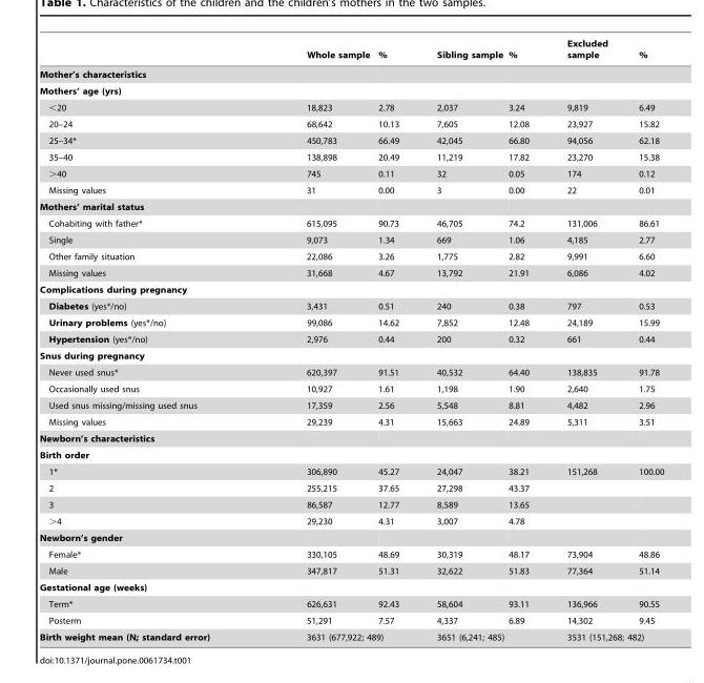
<table><thead><tr><td></td><td>Whole sample</td><td>%</td><td>Sibling sample</td><td>%</td><td>Excluded sample</td><td>%</td></tr></thead><tbody><tr><td colspan="7">Mother’s characteristics</td></tr><tr><td colspan="7">Mothers’ age (yrs)</td></tr><tr><td>&lt;20</td><td>18,823</td><td>2.78</td><td>2,037</td><td>3.24</td><td>9,819</td><td>6.49</td></tr><tr><td>20–24</td><td>68,642</td><td>10.13</td><td>7,605</td><td>12.08</td><td>23,927</td><td>15.82</td></tr><tr><td>25–34*</td><td>450,783</td><td>66.49</td><td>42,045</td><td>66.80</td><td>94,056</td><td>62.18</td></tr><tr><td>35–40</td><td>138,898</td><td>20.49</td><td>11,219</td><td>17.82</td><td>23,270</td><td>15.38</td></tr><tr><td>&gt;40</td><td>745</td><td>0.11</td><td>32</td><td>0.05</td><td>174</td><td>0.12</td></tr><tr><td>Missing values</td><td>31</td><td>0.00</td><td>3</td><td>0.00</td><td>22</td><td>0.01</td></tr><tr><td colspan="7">Mothers’ marital status</td></tr><tr><td>Cohabiting with father*</td><td>615,095</td><td>90.73</td><td>46,705</td><td>74.2</td><td>131,006</td><td>86.61</td></tr><tr><td>Single</td><td>9,073</td><td>1.34</td><td>669</td><td>1.06</td><td>4,185</td><td>2.77</td></tr><tr><td>Other family situation</td><td>22,086</td><td>3.26</td><td>1,775</td><td>2.82</td><td>9,991</td><td>6.60</td></tr><tr><td>Missing values</td><td>31,668</td><td>4.67</td><td>13,792</td><td>21.91</td><td>6,086</td><td>4.02</td></tr><tr><td colspan="7">Complications during pregnancy</td></tr><tr><td>Diabetes (yes*/no)</td><td>3,431</td><td>0.51</td><td>240</td><td>0.38</td><td>797</td><td>0.53</td></tr><tr><td>Urinary problems (yes*/no)</td><td>99,086</td><td>14.62</td><td>7,852</td><td>12.48</td><td>24,189</td><td>15.99</td></tr><tr><td>Hypertension (yes*/no)</td><td>2,976</td><td>0.44</td><td>200</td><td>0.32</td><td>661</td><td>0.44</td></tr><tr><td colspan="7">Snus during pregnancy</td></tr><tr><td>Never used snus*</td><td>620,397</td><td>91.51</td><td>40,532</td><td>64.40</td><td>138,835</td><td>91.78</td></tr><tr><td>Occasionally used snus</td><td>10,927</td><td>1.61</td><td>1,198</td><td>1.90</td><td>2,640</td><td>1.75</td></tr><tr><td>Used snus missing/missing used snus</td><td>17,359</td><td>2.56</td><td>5,548</td><td>8.81</td><td>4,482</td><td>2.96</td></tr><tr><td>Missing values</td><td>29,239</td><td>4.31</td><td>15,663</td><td>24.89</td><td>5,311</td><td>3.51</td></tr><tr><td colspan="7">Newborn’s characteristics</td></tr><tr><td colspan="7">Birth order</td></tr><tr><td>1*</td><td>306,890</td><td>45.27</td><td>24,047</td><td>38.21</td><td>151,268</td><td>100.00</td></tr><tr><td>2</td><td>255,215</td><td>37.65</td><td>27,298</td><td>43.37</td><td></td><td></td></tr><tr><td>3</td><td>86,587</td><td>12.77</td><td>8,589</td><td>13.65</td><td></td><td></td></tr><tr><td>&gt;4</td><td>29,230</td><td>4.31</td><td>3,007</td><td>4.78</td><td></td><td></td></tr><tr><td colspan="7">Newborn’s gender</td></tr><tr><td>Female*</td><td>330,105</td><td>48.69</td><td>30,319</td><td>48.17</td><td>73,904</td><td>48.86</td></tr><tr><td>Male</td><td>347,817</td><td>51.31</td><td>32,622</td><td>51.83</td><td>77,364</td><td>51.14</td></tr><tr><td colspan="7">Gestational age (weeks)</td></tr><tr><td>Term*</td><td>626,631</td><td>92.43</td><td>58,604</td><td>93.11</td><td>136,966</td><td>90.55</td></tr><tr><td>Posterm</td><td>51,291</td><td>7.57</td><td>4,337</td><td>6.89</td><td>14,302</td><td>9.45</td></tr><tr><td>Birth weight mean (N; standard error)</td><td colspan="2">3631 (677,922; 489)</td><td colspan="2">3651 (6,241; 485)</td><td colspan="2">3531 (151,268; 482)</td></tr></tbody></table>